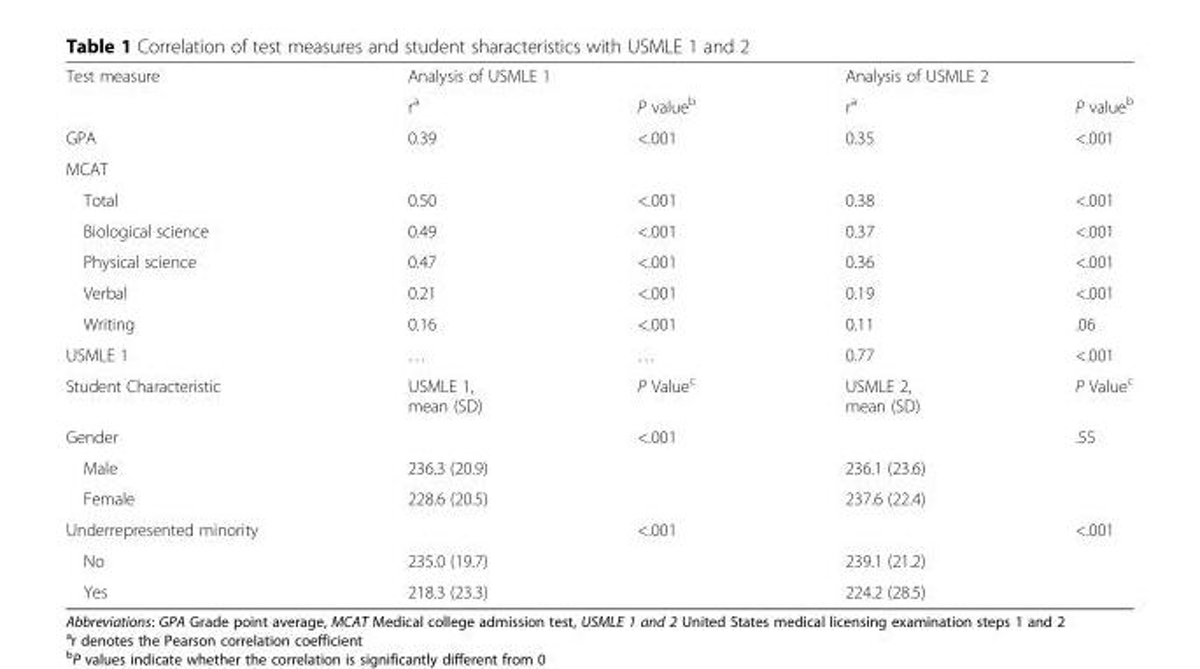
<table><tbody><tr><td rowspan="2">Test measure</td><td colspan="2">Analysis of USMLE 1</td><td colspan="2">Analysis of USMLE 2</td></tr><tr><td>r<sup>a</sup></td><td>P value<sup>b</sup></td><td>r<sup>a</sup></td><td>P value<sup>b</sup></td></tr><tr><td>GPA</td><td>0.39</td><td>&lt;.001</td><td>0.35</td><td>&lt;.001</td></tr><tr><td colspan="5">MCAT</td></tr><tr><td>Total</td><td>0.50</td><td>&lt;.001</td><td>0.38</td><td>&lt;.001</td></tr><tr><td>Biological science</td><td>0.49</td><td>&lt;.001</td><td>0.37</td><td>&lt;.001</td></tr><tr><td>Physical science</td><td>0.47</td><td>&lt;.001</td><td>0.36</td><td>&lt;.001</td></tr><tr><td>Verbal</td><td>0.21</td><td>&lt;.001</td><td>0.19</td><td>&lt;.001</td></tr><tr><td>Writing</td><td>0.16</td><td>&lt;.001</td><td>0.11</td><td>.06</td></tr><tr><td>USMLE 1</td><td>…</td><td>…</td><td>0.77</td><td>&lt;.001</td></tr><tr><td>Student Characteristic</td><td>USMLE 1, mean (SD)</td><td>P Value<sup>c</sup></td><td>USMLE 2, mean (SD)</td><td>P Value<sup>c</sup></td></tr><tr><td>Gender</td><td></td><td>&lt;.001</td><td></td><td>.55</td></tr><tr><td>Male</td><td>236.3 (20.9)</td><td></td><td>236.1 (23.6)</td><td></td></tr><tr><td>Female</td><td>228.6 (20.5)</td><td></td><td>237.6 (22.4)</td><td></td></tr><tr><td>Underrepresented minority</td><td></td><td>&lt;.001</td><td></td><td>&lt;.001</td></tr><tr><td>No</td><td>235.0 (19.7)</td><td></td><td>239.1 (21.2)</td><td></td></tr><tr><td>Yes</td><td>218.3 (23.3)</td><td></td><td>224.2 (28.5)</td><td></td></tr></tbody></table>